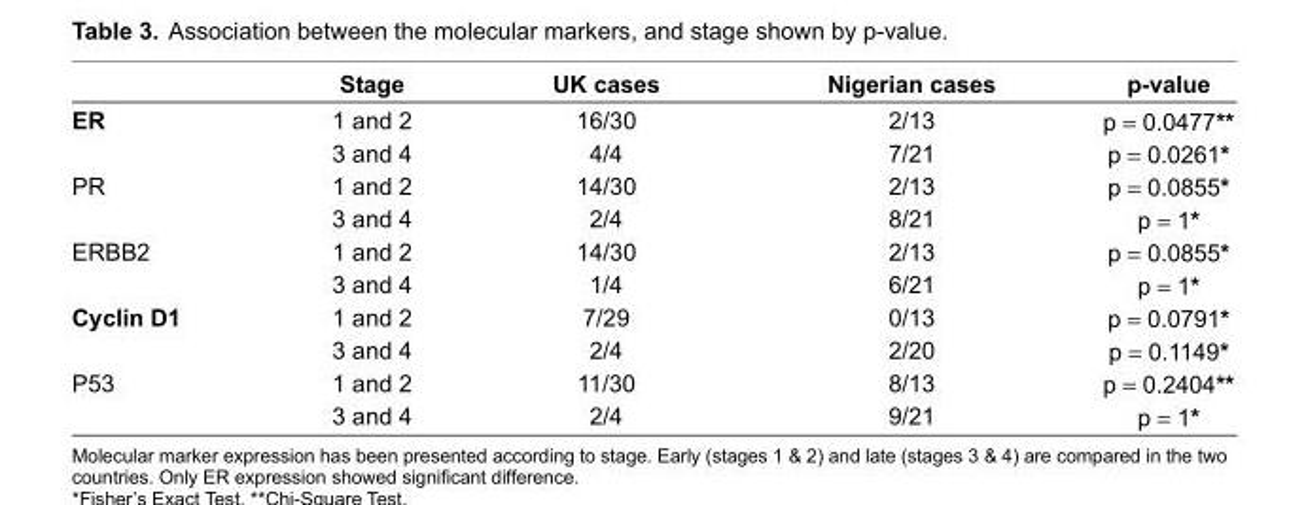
<table><thead><tr><td></td><td>Stage</td><td>UK cases</td><td>Nigerian cases</td><td>p-value</td></tr></thead><tbody><tr><td rowspan="2">ER</td><td>1 and 2</td><td>16/30</td><td>2/13</td><td>p = 0.0477**</td></tr><tr><td>3 and 4</td><td>4/4</td><td>7/21</td><td>p = 0.0261*</td></tr><tr><td rowspan="2">PR</td><td>1 and 2</td><td>14/30</td><td>2/13</td><td>p = 0.0855*</td></tr><tr><td>3 and 4</td><td>2/4</td><td>8/21</td><td>p = 1*</td></tr><tr><td rowspan="2">ERBB2</td><td>1 and 2</td><td>14/30</td><td>2/13</td><td>p = 0.0855*</td></tr><tr><td>3 and 4</td><td>1/4</td><td>6/21</td><td>p = 1*</td></tr><tr><td rowspan="2">Cyclin D1</td><td>1 and 2</td><td>7/29</td><td>0/13</td><td>p = 0.0791*</td></tr><tr><td>3 and 4</td><td>2/4</td><td>2/20</td><td>p = 0.1149*</td></tr><tr><td rowspan="2">P53</td><td>1 and 2</td><td>11/30</td><td>8/13</td><td>p = 0.2404**</td></tr><tr><td>3 and 4</td><td>2/4</td><td>9/21</td><td>p = 1*</td></tr></tbody></table>